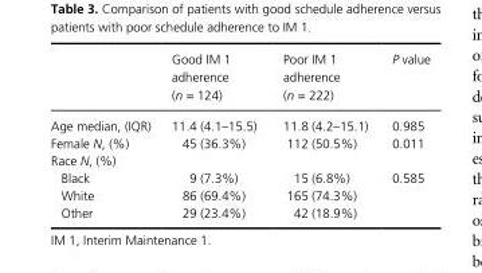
<table><thead><tr><td></td><td>Good IM 1 adherence (n = 124)</td><td>Poor IM 1 adherence (n = 222)</td><td>P value</td></tr></thead><tbody><tr><td>Age median, (IQR)</td><td>11.4 (4.1–15.5)</td><td>11.8 (4.2–15.1)</td><td>0.985</td></tr><tr><td>Female N, (%)</td><td>45 (36.3%)</td><td>112 (50.5%)</td><td>0.011</td></tr><tr><td colspan="4">Race N, (%)</td></tr><tr><td>Black</td><td>9 (7.3%)</td><td>15 (6.8%)</td><td rowspan="3">0.585</td></tr><tr><td>White</td><td>86 (69.4%)</td><td>165 (74.3%)</td></tr><tr><td>Other</td><td>29 (23.4%)</td><td>42 (18.9%)</td></tr></tbody></table>